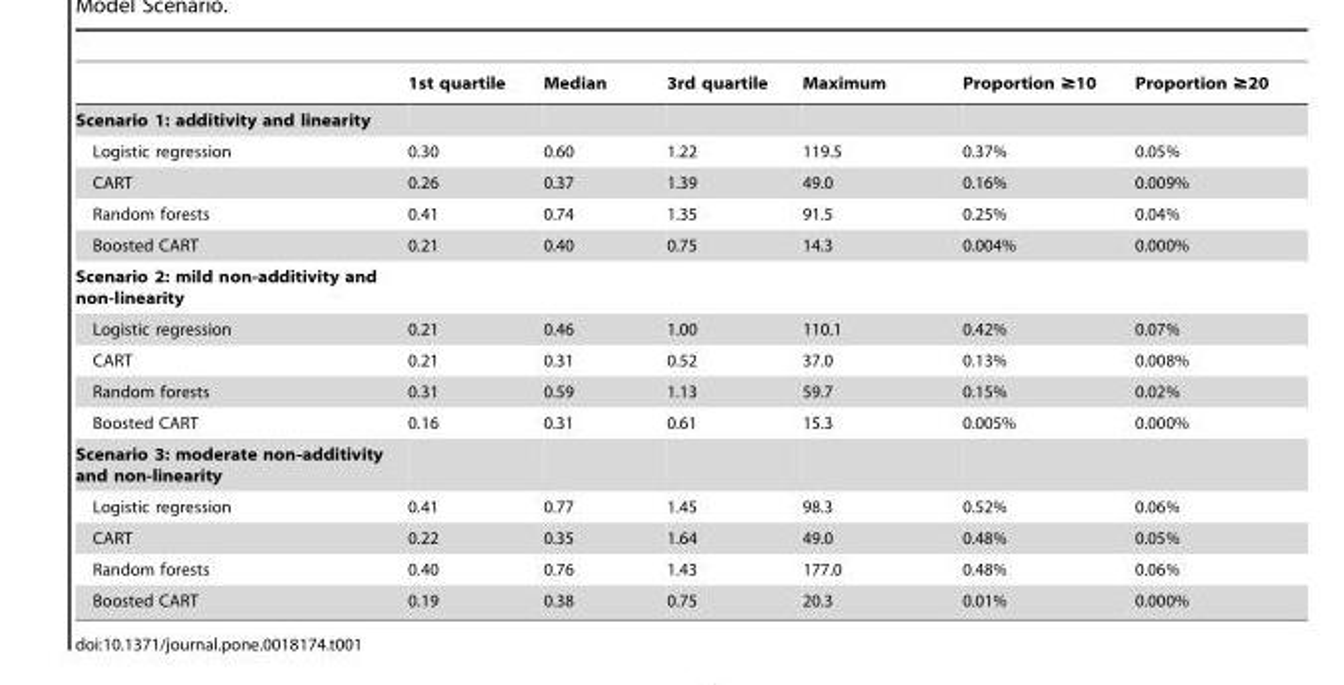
<table><thead><tr><td></td><td>1st quartile</td><td>Median</td><td>3rd quartile</td><td>Maximum</td><td>Proportion ≥10</td><td>Proportion ≥20</td></tr></thead><tbody><tr><td colspan="7">Scenario 1: additivity and linearity</td></tr><tr><td>Logistic regression</td><td>0.30</td><td>0.60</td><td>1.22</td><td>119.5</td><td>0.37%</td><td>0.05%</td></tr><tr><td>CART</td><td>0.26</td><td>0.37</td><td>1.39</td><td>49.0</td><td>0.16%</td><td>0.009%</td></tr><tr><td>Random forests</td><td>0.41</td><td>0.74</td><td>1.35</td><td>91.5</td><td>0.25%</td><td>0.04%</td></tr><tr><td>Boosted CART</td><td>0.21</td><td>0.40</td><td>0.75</td><td>14.3</td><td>0.004%</td><td>0.000%</td></tr><tr><td colspan="7">Scenario 2: mild non-additivity and non-linearity</td></tr><tr><td>Logistic regression</td><td>0.21</td><td>0.46</td><td>1.00</td><td>110.1</td><td>0.42%</td><td>0.07%</td></tr><tr><td>CART</td><td>0.21</td><td>0.31</td><td>0.52</td><td>37.0</td><td>0.13%</td><td>0.008%</td></tr><tr><td>Random forests</td><td>0.31</td><td>0.59</td><td>1.13</td><td>59.7</td><td>0.15%</td><td>0.02%</td></tr><tr><td>Boosted CART</td><td>0.16</td><td>0.31</td><td>0.61</td><td>15.3</td><td>0.005%</td><td>0.000%</td></tr><tr><td colspan="7">Scenario 3: moderate non-additivity and non-linearity</td></tr><tr><td>Logistic regression</td><td>0.41</td><td>0.77</td><td>1.45</td><td>98.3</td><td>0.52%</td><td>0.06%</td></tr><tr><td>CART</td><td>0.22</td><td>0.35</td><td>1.64</td><td>49.0</td><td>0.48%</td><td>0.05%</td></tr><tr><td>Random forests</td><td>0.40</td><td>0.76</td><td>1.43</td><td>177.0</td><td>0.48%</td><td>0.06%</td></tr><tr><td>Boosted CART</td><td>0.19</td><td>0.38</td><td>0.75</td><td>20.3</td><td>0.01%</td><td>0.000%</td></tr></tbody></table>